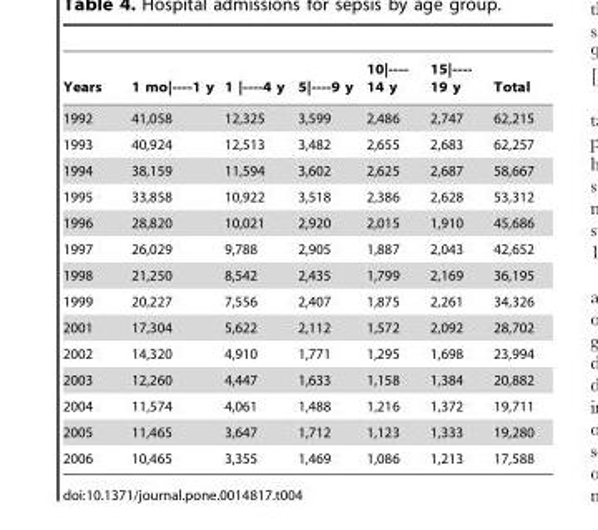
<table><thead><tr><td>Years</td><td>1 mo|----1 y</td><td>1 |----4 y</td><td>5|----9 y</td><td>10|---- 14 y</td><td>15|---- 19 y</td><td>Total</td></tr></thead><tbody><tr><td>1992</td><td>41,058</td><td>12,325</td><td>3,599</td><td>2,486</td><td>2,747</td><td>62,215</td></tr><tr><td>1993</td><td>40,924</td><td>12,513</td><td>3,482</td><td>2,655</td><td>2,683</td><td>62,257</td></tr><tr><td>1994</td><td>38,159</td><td>11,594</td><td>3,602</td><td>2,625</td><td>2,687</td><td>58,667</td></tr><tr><td>1995</td><td>33,858</td><td>10,922</td><td>3,518</td><td>2,386</td><td>2,628</td><td>53,312</td></tr><tr><td>1996</td><td>28,820</td><td>10,021</td><td>2,920</td><td>2,015</td><td>1,910</td><td>45,686</td></tr><tr><td>1997</td><td>26,029</td><td>9,788</td><td>2,905</td><td>1,887</td><td>2,043</td><td>42,652</td></tr><tr><td>1998</td><td>21,250</td><td>8,542</td><td>2,435</td><td>1,799</td><td>2,169</td><td>36,195</td></tr><tr><td>1999</td><td>20,227</td><td>7,556</td><td>2,407</td><td>1,875</td><td>2,261</td><td>34,326</td></tr><tr><td>2001</td><td>17,304</td><td>5,622</td><td>2,112</td><td>1,572</td><td>2,092</td><td>28,702</td></tr><tr><td>2002</td><td>14,320</td><td>4,910</td><td>1,771</td><td>1,295</td><td>1,698</td><td>23,994</td></tr><tr><td>2003</td><td>12,260</td><td>4,447</td><td>1,633</td><td>1,158</td><td>1,384</td><td>20,882</td></tr><tr><td>2004</td><td>11,574</td><td>4,061</td><td>1,488</td><td>1,216</td><td>1,372</td><td>19,711</td></tr><tr><td>2005</td><td>11,465</td><td>3,647</td><td>1,712</td><td>1,123</td><td>1,333</td><td>19,280</td></tr><tr><td>2006</td><td>10,465</td><td>3,355</td><td>1,469</td><td>1,086</td><td>1,213</td><td>17,588</td></tr></tbody></table>